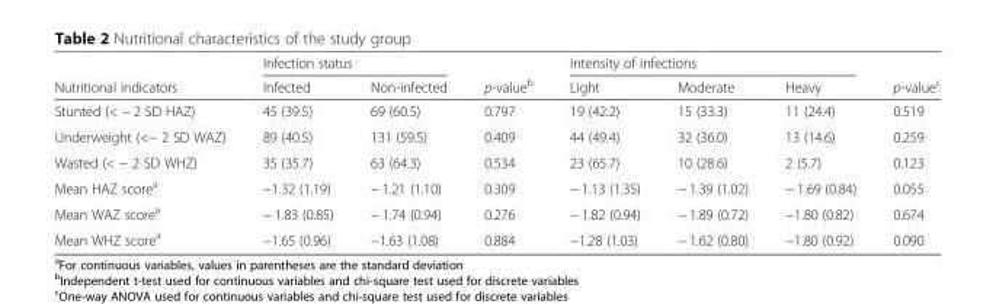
<table><thead><tr><td rowspan="2">Nutritional indicators</td><td colspan="2">Infection status</td><td rowspan="2">p-value<sup>b</sup></td><td colspan="3">Intensity of infections</td><td rowspan="2">p-value<sup>c</sup></td></tr><tr><td>Infected</td><td>Non-infected</td><td>Light</td><td>Moderate</td><td>Heavy</td></tr></thead><tbody><tr><td>Stunted (&lt; − 2 SD HAZ)</td><td>45 (39.5)</td><td>69 (60.5)</td><td>0.797</td><td>19 (42.2)</td><td>15 (33.3)</td><td>11 (24.4)</td><td>0.519</td></tr><tr><td>Underweight (&lt;− 2 SD WAZ)</td><td>89 (40.5)</td><td>131 (59.5)</td><td>0.409</td><td>44 (49.4)</td><td>32 (36.0)</td><td>13 (14.6)</td><td>0.259</td></tr><tr><td>Wasted (&lt; − 2 SD WHZ)</td><td>35 (35.7)</td><td>63 (64.3)</td><td>0.534</td><td>23 (65.7)</td><td>10 (28.6)</td><td>2 (5.7)</td><td>0.123</td></tr><tr><td>Mean HAZ score<sup>a</sup></td><td>−1.32 (1.19)</td><td>− 1.21 (1.10)</td><td>0.309</td><td>− 1.13 (1.35)</td><td>− 1.39 (1.02)</td><td>− 1.69 (0.84)</td><td>0.055</td></tr><tr><td>Mean WAZ score<sup>a</sup></td><td>− 1.83 (0.85)</td><td>− 1.74 (0.94)</td><td>0.276</td><td>− 1.82 (0.94)</td><td>− 1.89 (0.72)</td><td>−1.80 (0.82)</td><td>0.674</td></tr><tr><td>Mean WHZ score<sup>a</sup></td><td>−1.65 (0.96)</td><td>−1.63 (1.08)</td><td>0.884</td><td>−1.28 (1.03)</td><td>− 1.62 (0.80)</td><td>−1.80 (0.92)</td><td>0.090</td></tr></tbody></table>